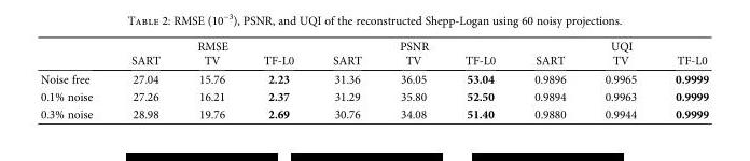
<table><thead><tr><td rowspan="2"></td><td colspan="3">RMSE</td><td colspan="3">PSNR</td><td colspan="3">UQI</td></tr><tr><td>SART</td><td>TV</td><td>TF-L0</td><td>SART</td><td>TV</td><td>TF-L0</td><td>SART</td><td>TV</td><td>TF-L0</td></tr></thead><tbody><tr><td>Noise free</td><td>27.04</td><td>15.76</td><td>2.23</td><td>31.36</td><td>36.05</td><td>53.04</td><td>0.9896</td><td>0.9965</td><td>0.9999</td></tr><tr><td>0.1% noise</td><td>27.26</td><td>16.21</td><td>2.37</td><td>31.29</td><td>35.80</td><td>52.50</td><td>0.9894</td><td>0.9963</td><td>0.9999</td></tr><tr><td>0.3% noise</td><td>28.98</td><td>19.76</td><td>2.69</td><td>30.76</td><td>34.08</td><td>51.40</td><td>0.9880</td><td>0.9944</td><td>0.9999</td></tr></tbody></table>